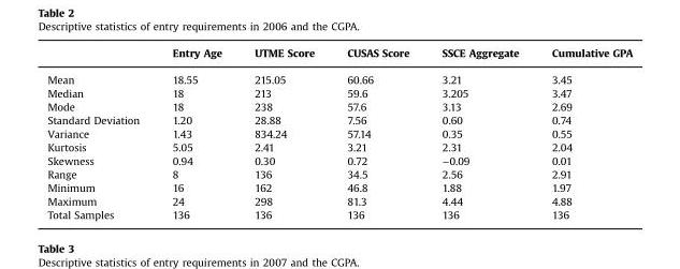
<table><thead><tr><td></td><td>Entry Age</td><td>UTME Score</td><td>CUSAS Score</td><td>SSCE Aggregate</td><td>Cumulative GPA</td></tr></thead><tbody><tr><td>Mean</td><td>18.55</td><td>215.05</td><td>60.66</td><td>3.21</td><td>3.45</td></tr><tr><td>Median</td><td>18</td><td>213</td><td>59.6</td><td>3.205</td><td>3.47</td></tr><tr><td>Mode</td><td>18</td><td>238</td><td>57.6</td><td>3.13</td><td>2.69</td></tr><tr><td>Standard Deviation</td><td>1.20</td><td>28.88</td><td>7.56</td><td>0.60</td><td>0.74</td></tr><tr><td>Variance</td><td>1.43</td><td>834.24</td><td>57.14</td><td>0.35</td><td>0.55</td></tr><tr><td>Kurtosis</td><td>5.05</td><td>2.41</td><td>3.21</td><td>2.31</td><td>2.04</td></tr><tr><td>Skewness</td><td>0.94</td><td>0.30</td><td>0.72</td><td>−0.09</td><td>0.01</td></tr><tr><td>Range</td><td>8</td><td>136</td><td>34.5</td><td>2.56</td><td>2.91</td></tr><tr><td>Minimum</td><td>16</td><td>162</td><td>46.8</td><td>1.88</td><td>1.97</td></tr><tr><td>Maximum</td><td>24</td><td>298</td><td>81.3</td><td>4.44</td><td>4.88</td></tr><tr><td>Total Samples</td><td>136</td><td>136</td><td>136</td><td>136</td><td>136</td></tr></tbody></table>